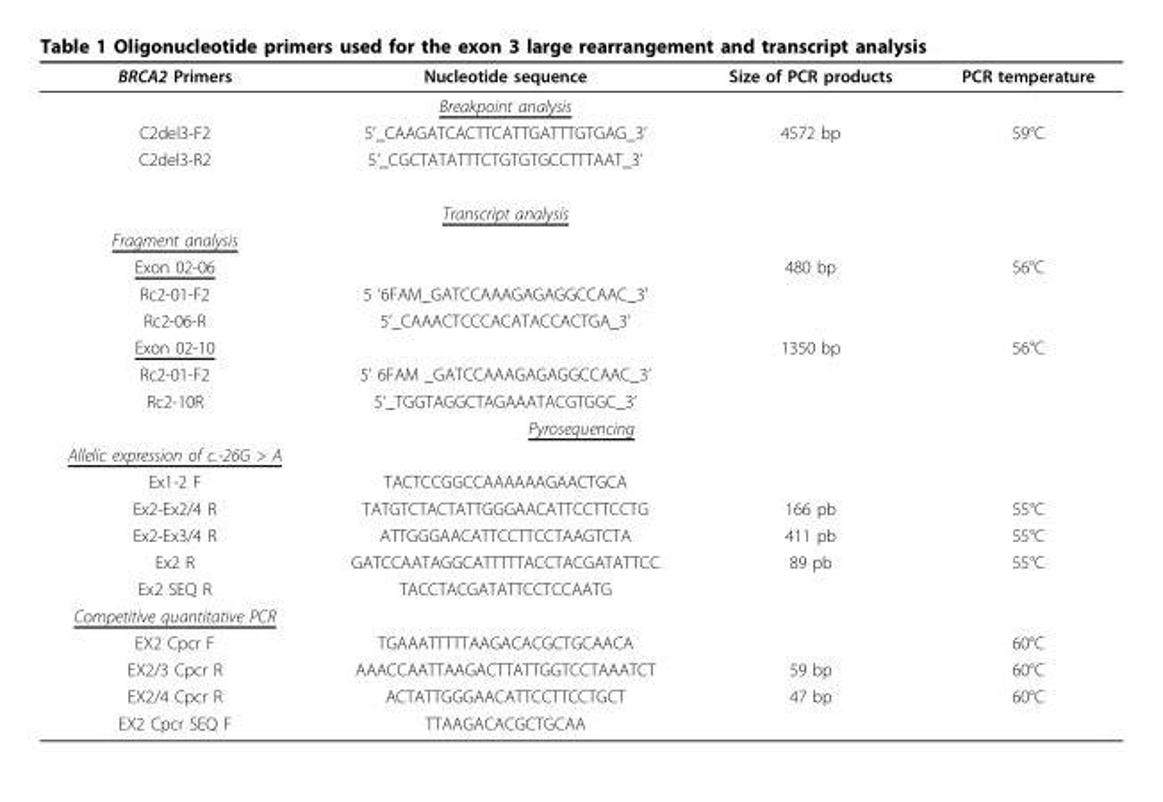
<table><thead><tr><td>BRCA2 Primers</td><td>Nucleotide sequence</td><td>Size of PCR products</td><td>PCR temperature</td></tr></thead><tbody><tr><td></td><td>Breakpoint analysis</td><td></td><td></td></tr><tr><td>C2del3-F2</td><td>5’_CAAGATCACTTCATTGATTTGTGAG_3’</td><td>4572 bp</td><td>59°C</td></tr><tr><td rowspan="2">C2del3-R2</td><td>5’_CGCTATATTTCTGTGTGCCTTTAAT_3’</td><td></td><td></td></tr><tr><td>Transcript analysis</td><td></td><td></td></tr><tr><td colspan="4">Fragment analysis</td></tr><tr><td>Exon 02-06</td><td></td><td>480 bp</td><td>56°C</td></tr><tr><td>Rc2-01-F2</td><td>5 ‘6FAM_GATCCAAAGAGAGGCCAAC_3’</td><td></td><td></td></tr><tr><td>Rc2-06-R</td><td>5’_CAAACTCCCACATACCACTGA_3’</td><td></td><td></td></tr><tr><td>Exon 02-10</td><td></td><td>1350 bp</td><td>56°C</td></tr><tr><td>Rc2-01-F2</td><td>5’ 6FAM _GATCCAAAGAGAGGCCAAC_3’</td><td></td><td></td></tr><tr><td>Rc2-10R</td><td>5’_TGGTAGGCTAGAAATACGTGGC_3’</td><td></td><td></td></tr><tr><td colspan="4">Pyrosequencing</td></tr><tr><td colspan="4">Allelic expression of c.-26G &gt; A</td></tr><tr><td>Ex1-2 F</td><td>TACTCCGGCCAAAAAAGAACTGCA</td><td></td><td></td></tr><tr><td>Ex2-Ex2/4 R</td><td>TATGTCTACTATTGGGAACATTCCTTCCTG</td><td>166 pb</td><td>55°C</td></tr><tr><td>Ex2-Ex3/4 R</td><td>ATTGGGAACATTCCTTCCTAAGTCTA</td><td>411 pb</td><td>55°C</td></tr><tr><td>Ex2 R</td><td>GATCCAATAGGCATTTTTACCTACGATATTCC</td><td>89 pb</td><td>55°C</td></tr><tr><td>Ex2 SEQ R</td><td>TACCTACGATATTCCTCCAATG</td><td></td><td></td></tr><tr><td colspan="4">Competitive quantitative PCR</td></tr><tr><td>EX2 Cpcr F</td><td>TGAAATTTTTAAGACACGCTGCAACA</td><td></td><td>60°C</td></tr><tr><td>EX2/3 Cpcr R</td><td>AAACCAATTAAGACTTATTGGTCCTAAATCT</td><td>59 bp</td><td>60°C</td></tr><tr><td>EX2/4 Cpcr R</td><td>ACTATTGGGAACATTCCTTCCTGCT</td><td>47 bp</td><td>60°C</td></tr><tr><td>EX2 Cpcr SEQ F</td><td>TTAAGACACGCTGCAA</td><td></td><td></td></tr></tbody></table>